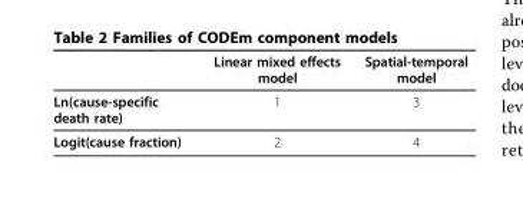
<table><thead><tr><td></td><td>Linear mixed effects model</td><td>Spatial-temporal model</td></tr></thead><tbody><tr><td>Ln(cause-specific death rate)</td><td>1</td><td>3</td></tr><tr><td>Logit(cause fraction)</td><td>2</td><td>4</td></tr></tbody></table>